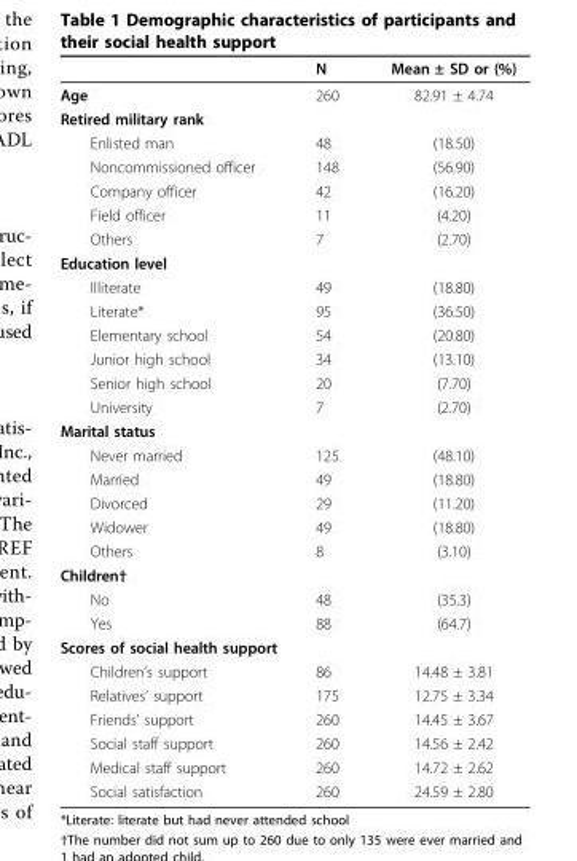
<table><thead><tr><td></td><td>N</td><td>Mean ± SD or (%)</td></tr></thead><tbody><tr><td>Age</td><td>260</td><td>82.91 ± 4.74</td></tr><tr><td colspan="3">Retired military rank</td></tr><tr><td>Enlisted man</td><td>48</td><td>(18.50)</td></tr><tr><td>Noncommissioned officer</td><td>148</td><td>(56.90)</td></tr><tr><td>Company officer</td><td>42</td><td>(16.20)</td></tr><tr><td>Field officer</td><td>11</td><td>(4.20)</td></tr><tr><td>Others</td><td>7</td><td>(2.70)</td></tr><tr><td colspan="3">Education level</td></tr><tr><td>Illiterate</td><td>49</td><td>(18.80)</td></tr><tr><td>Literate*</td><td>95</td><td>(36.50)</td></tr><tr><td>Elementary school</td><td>54</td><td>(20.80)</td></tr><tr><td>Junior high school</td><td>34</td><td>(13.10)</td></tr><tr><td>Senior high school</td><td>20</td><td>(7.70)</td></tr><tr><td>University</td><td>7</td><td>(2.70)</td></tr><tr><td colspan="3">Marital status</td></tr><tr><td>Never married</td><td>125</td><td>(48.10)</td></tr><tr><td>Married</td><td>49</td><td>(18.80)</td></tr><tr><td>Divorced</td><td>29</td><td>(11.20)</td></tr><tr><td>Widower</td><td>49</td><td>(18.80)</td></tr><tr><td>Others</td><td>8</td><td>(3.10)</td></tr><tr><td colspan="3">Children†</td></tr><tr><td>No</td><td>48</td><td>(35.3)</td></tr><tr><td>Yes</td><td>88</td><td>(64.7)</td></tr><tr><td colspan="3">Scores of social health support</td></tr><tr><td>Children’s support</td><td>86</td><td>14.48 ± 3.81</td></tr><tr><td>Relatives’ support</td><td>175</td><td>12.75 ± 3.34</td></tr><tr><td>Friends’ support</td><td>260</td><td>14.45 ± 3.67</td></tr><tr><td>Social staff support</td><td>260</td><td>14.56 ± 2.42</td></tr><tr><td>Medical staff support</td><td>260</td><td>14.72 ± 2.62</td></tr><tr><td>Social satisfaction</td><td>260</td><td>24.59 ± 2.80</td></tr></tbody></table>